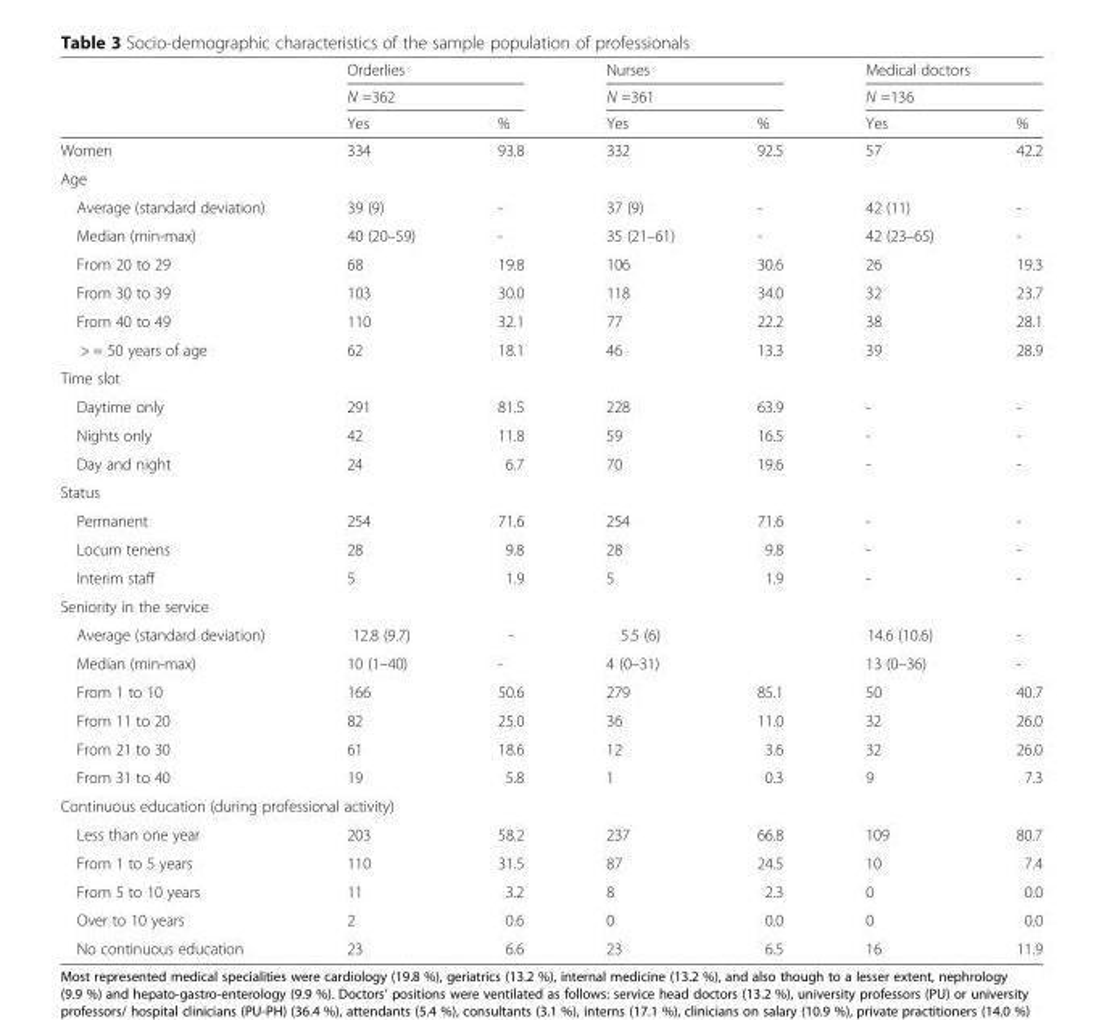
<table><thead><tr><td rowspan="3"></td><td rowspan="2" colspan="2">Orderlies N =362</td><td rowspan="2" colspan="2">Nurses N =361</td><td rowspan="2" colspan="2">Medical doctors N =136</td></tr><tr></tr><tr><td>Yes</td><td>%</td><td>Yes</td><td>%</td><td>Yes</td><td>%</td></tr></thead><tbody><tr><td>Women</td><td>334</td><td>93.8</td><td>332</td><td>92.5</td><td>57</td><td>42.2</td></tr><tr><td colspan="7">Age</td></tr><tr><td>Average (standard deviation)</td><td>39 (9)</td><td>-</td><td>37 (9)</td><td>-</td><td>42 (11)</td><td>-</td></tr><tr><td>Median (min-max)</td><td>40 (20–59)</td><td>-</td><td>35 (21–61)</td><td>-</td><td>42 (23–65)</td><td>-</td></tr><tr><td>From 20 to 29</td><td>68</td><td>19.8</td><td>106</td><td>30.6</td><td>26</td><td>19.3</td></tr><tr><td>From 30 to 39</td><td>103</td><td>30.0</td><td>118</td><td>34.0</td><td>32</td><td>23.7</td></tr><tr><td>From 40 to 49</td><td>110</td><td>32.1</td><td>77</td><td>22.2</td><td>38</td><td>28.1</td></tr><tr><td>&gt; = 50 years of age</td><td>62</td><td>18.1</td><td>46</td><td>13.3</td><td>39</td><td>28.9</td></tr><tr><td colspan="7">Time slot</td></tr><tr><td>Daytime only</td><td>291</td><td>81.5</td><td>228</td><td>63.9</td><td>-</td><td>-</td></tr><tr><td>Nights only</td><td>42</td><td>11.8</td><td>59</td><td>16.5</td><td>-</td><td>-</td></tr><tr><td>Day and night</td><td>24</td><td>6.7</td><td>70</td><td>19.6</td><td>-</td><td>-</td></tr><tr><td colspan="7">Status</td></tr><tr><td>Permanent</td><td>254</td><td>71.6</td><td>254</td><td>71.6</td><td>-</td><td>-</td></tr><tr><td>Locum tenens</td><td>28</td><td>9.8</td><td>28</td><td>9.8</td><td>-</td><td>-</td></tr><tr><td>Interim staff</td><td>5</td><td>1.9</td><td>5</td><td>1.9</td><td>-</td><td>-</td></tr><tr><td colspan="7">Seniority in the service</td></tr><tr><td>Average (standard deviation)</td><td>12.8 (9.7)</td><td>-</td><td>5.5 (6)</td><td></td><td>14.6 (10.6)</td><td>-</td></tr><tr><td>Median (min-max)</td><td>10 (1–40)</td><td>-</td><td>4 (0–31)</td><td></td><td>13 (0–36)</td><td>-</td></tr><tr><td>From 1 to 10</td><td>166</td><td>50.6</td><td>279</td><td>85.1</td><td>50</td><td>40.7</td></tr><tr><td>From 11 to 20</td><td>82</td><td>25.0</td><td>36</td><td>11.0</td><td>32</td><td>26.0</td></tr><tr><td>From 21 to 30</td><td>61</td><td>18.6</td><td>12</td><td>3.6</td><td>32</td><td>26.0</td></tr><tr><td>From 31 to 40</td><td>19</td><td>5.8</td><td>1</td><td>0.3</td><td>9</td><td>7.3</td></tr><tr><td colspan="7">Continuous education (during professional activity)</td></tr><tr><td>Less than one year</td><td>203</td><td>58.2</td><td>237</td><td>66.8</td><td>109</td><td>80.7</td></tr><tr><td>From 1 to 5 years</td><td>110</td><td>31.5</td><td>87</td><td>24.5</td><td>10</td><td>7.4</td></tr><tr><td>From 5 to 10 years</td><td>11</td><td>3.2</td><td>8</td><td>2.3</td><td>0</td><td>0.0</td></tr><tr><td>Over to 10 years</td><td>2</td><td>0.6</td><td>0</td><td>0.0</td><td>0</td><td>0.0</td></tr><tr><td>No continuous education</td><td>23</td><td>6.6</td><td>23</td><td>6.5</td><td>16</td><td>11.9</td></tr></tbody></table>